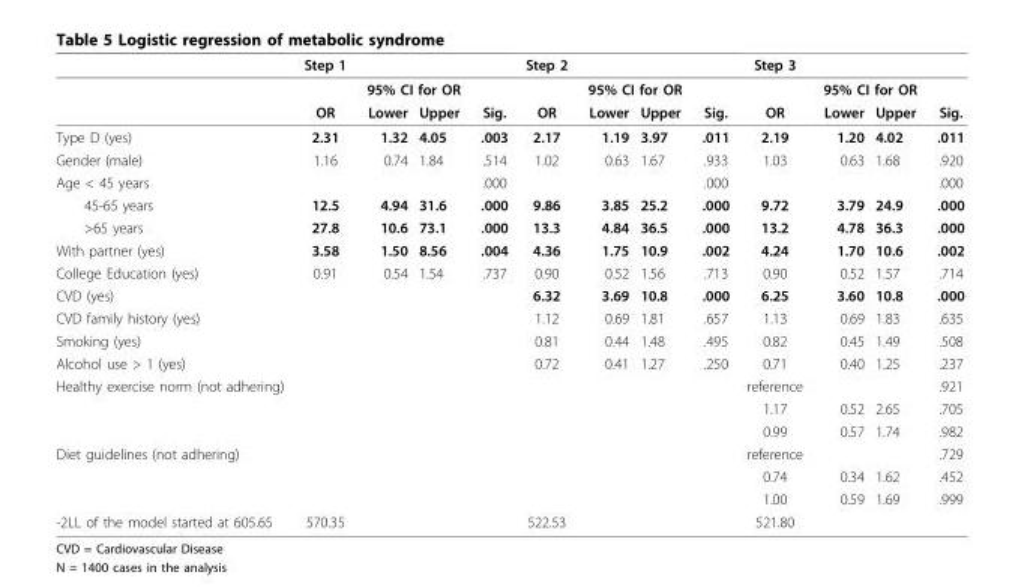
<table><thead><tr><td></td><td>Step 1</td><td></td><td></td><td></td><td>Step 2</td><td></td><td></td><td></td><td>Step 3</td><td></td><td></td><td></td></tr></thead><tbody><tr><td></td><td></td><td colspan="2">95% CI for OR</td><td></td><td></td><td colspan="2">95% CI for OR</td><td></td><td></td><td colspan="2">95% CI for OR</td><td></td></tr><tr><td></td><td>OR</td><td>Lower</td><td>Upper</td><td>Sig.</td><td>OR</td><td>Lower</td><td>Upper</td><td>Sig.</td><td>OR</td><td>Lower</td><td>Upper</td><td>Sig.</td></tr><tr><td>Type D (yes)</td><td>2.31</td><td>1.32</td><td>4.05</td><td>.003</td><td>2.17</td><td>1.19</td><td>3.97</td><td>.011</td><td>2.19</td><td>1.20</td><td>4.02</td><td>.011</td></tr><tr><td>Gender (male)</td><td>1.16</td><td>0.74</td><td>1.84</td><td>.514</td><td>1.02</td><td>0.63</td><td>1.67</td><td>.933</td><td>1.03</td><td>0.63</td><td>1.68</td><td>.920</td></tr><tr><td>Age &lt; 45 years</td><td></td><td></td><td></td><td>.000</td><td></td><td></td><td></td><td>.000</td><td></td><td></td><td></td><td>.000</td></tr><tr><td>45-65 years</td><td>12.5</td><td>4.94</td><td>31.6</td><td>.000</td><td>9.86</td><td>3.85</td><td>25.2</td><td>.000</td><td>9.72</td><td>3.79</td><td>24.9</td><td>.000</td></tr><tr><td>&gt;65 years</td><td>27.8</td><td>10.6</td><td>73.1</td><td>.000</td><td>13.3</td><td>4.84</td><td>36.5</td><td>.000</td><td>13.2</td><td>4.78</td><td>36.3</td><td>.000</td></tr><tr><td>With partner (yes)</td><td>3.58</td><td>1.50</td><td>8.56</td><td>.004</td><td>4.36</td><td>1.75</td><td>10.9</td><td>.002</td><td>4.24</td><td>1.70</td><td>10.6</td><td>.002</td></tr><tr><td>College Education (yes)</td><td>0.91</td><td>0.54</td><td>1.54</td><td>.737</td><td>0.90</td><td>0.52</td><td>1.56</td><td>.713</td><td>0.90</td><td>0.52</td><td>1.57</td><td>.714</td></tr><tr><td>CVD (yes)</td><td></td><td></td><td></td><td></td><td>6.32</td><td>3.69</td><td>10.8</td><td>.000</td><td>6.25</td><td>3.60</td><td>10.8</td><td>.000</td></tr><tr><td>CVD family history (yes)</td><td></td><td></td><td></td><td></td><td>1.12</td><td>0.69</td><td>1.81</td><td>.657</td><td>1.13</td><td>0.69</td><td>1.83</td><td>.635</td></tr><tr><td>Smoking (yes)</td><td></td><td></td><td></td><td></td><td>0.81</td><td>0.44</td><td>1.48</td><td>.495</td><td>0.82</td><td>0.45</td><td>1.49</td><td>.508</td></tr><tr><td>Alcohol use &gt; 1 (yes)</td><td></td><td></td><td></td><td></td><td>0.72</td><td>0.41</td><td>1.27</td><td>.250</td><td>0.71</td><td>0.40</td><td>1.25</td><td>.237</td></tr><tr><td rowspan="3">Healthy exercise norm (not adhering)</td><td></td><td></td><td></td><td></td><td></td><td></td><td></td><td></td><td>reference</td><td></td><td></td><td>.921</td></tr><tr><td></td><td></td><td></td><td></td><td></td><td></td><td></td><td></td><td>1.17</td><td>0.52</td><td>2.65</td><td>.705</td></tr><tr><td></td><td></td><td></td><td></td><td></td><td></td><td></td><td></td><td>0.99</td><td>0.57</td><td>1.74</td><td>.982</td></tr><tr><td rowspan="3">Diet guidelines (not adhering)</td><td></td><td></td><td></td><td></td><td></td><td></td><td></td><td></td><td>reference</td><td></td><td></td><td>.729</td></tr><tr><td></td><td></td><td></td><td></td><td></td><td></td><td></td><td></td><td>0.74</td><td>0.34</td><td>1.62</td><td>.452</td></tr><tr><td></td><td></td><td></td><td></td><td></td><td></td><td></td><td></td><td>1.00</td><td>0.59</td><td>1.69</td><td>.999</td></tr><tr><td>-2LL of the model started at 605.65</td><td>570.35</td><td></td><td></td><td></td><td>522.53</td><td></td><td></td><td></td><td>521.80</td><td></td><td></td><td></td></tr></tbody></table>